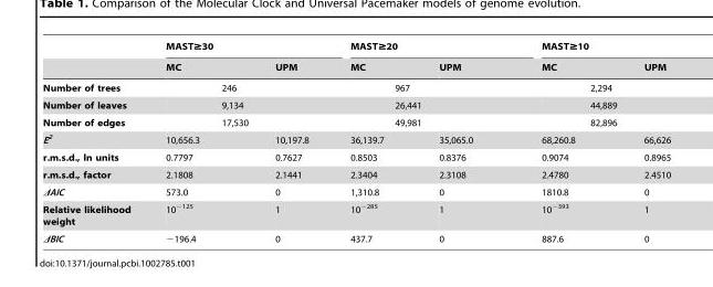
<table><thead><tr><td rowspan="2"></td><td colspan="2">MAST≥30</td><td colspan="2">MAST≥20</td><td colspan="2">MAST≥10</td></tr><tr><td>MC</td><td>UPM</td><td>MC</td><td>UPM</td><td>MC</td><td>UPM</td></tr></thead><tbody><tr><td>Number of trees</td><td colspan="2">246</td><td colspan="2">967</td><td colspan="2">2,294</td></tr><tr><td>Number of leaves</td><td colspan="2">9,134</td><td colspan="2">26,441</td><td colspan="2">44,889</td></tr><tr><td>Number of edges</td><td colspan="2">17,530</td><td colspan="2">49,981</td><td colspan="2">82,896</td></tr><tr><td>E<sup>2</sup></td><td>10,656.3</td><td>10,197.8</td><td>36,139.7</td><td>35,065.0</td><td>68,260.8</td><td>66,626</td></tr><tr><td>r.m.s.d., ln units</td><td>0.7797</td><td>0.7627</td><td>0.8503</td><td>0.8376</td><td>0.9074</td><td>0.8965</td></tr><tr><td>r.m.s.d., factor</td><td>2.1808</td><td>2.1441</td><td>2.3404</td><td>2.3108</td><td>2.4780</td><td>2.4510</td></tr><tr><td>ΔAIC</td><td>573.0</td><td>0</td><td>1,310.8</td><td>0</td><td>1810.8</td><td>0</td></tr><tr><td>Relative likelihood weight</td><td>10<sup>−125</sup></td><td>1</td><td>10<sup>−285</sup></td><td>1</td><td>10<sup>−393</sup></td><td>1</td></tr><tr><td>ΔBIC</td><td>−196.4</td><td>0</td><td>437.7</td><td>0</td><td>887.6</td><td>0</td></tr></tbody></table>